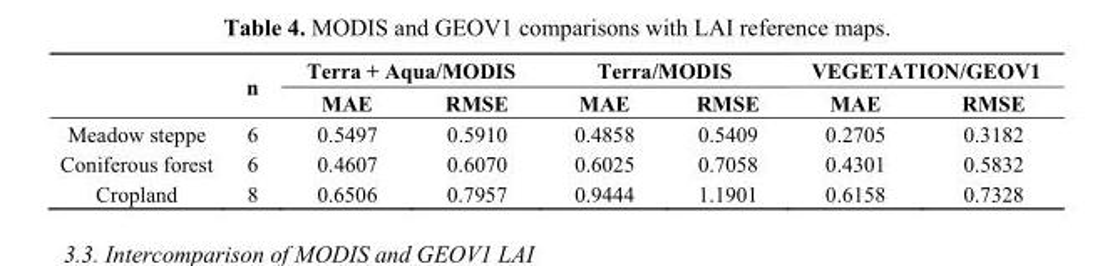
<table><thead><tr><td rowspan="2"></td><td rowspan="2">n</td><td colspan="2">Terra + Aqua/MODIS</td><td colspan="2">Terra/MODIS</td><td colspan="2">VEGETATION/GEOV1</td></tr><tr><td>MAE</td><td>RMSE</td><td>MAE</td><td>RMSE</td><td>MAE</td><td>RMSE</td></tr></thead><tbody><tr><td>Meadow steppe</td><td>6</td><td>0.5497</td><td>0.5910</td><td>0.4858</td><td>0.5409</td><td>0.2705</td><td>0.3182</td></tr><tr><td>Coniferous forest</td><td>6</td><td>0.4607</td><td>0.6070</td><td>0.6025</td><td>0.7058</td><td>0.4301</td><td>0.5832</td></tr><tr><td>Cropland</td><td>8</td><td>0.6506</td><td>0.7957</td><td>0.9444</td><td>1.1901</td><td>0.6158</td><td>0.7328</td></tr></tbody></table>